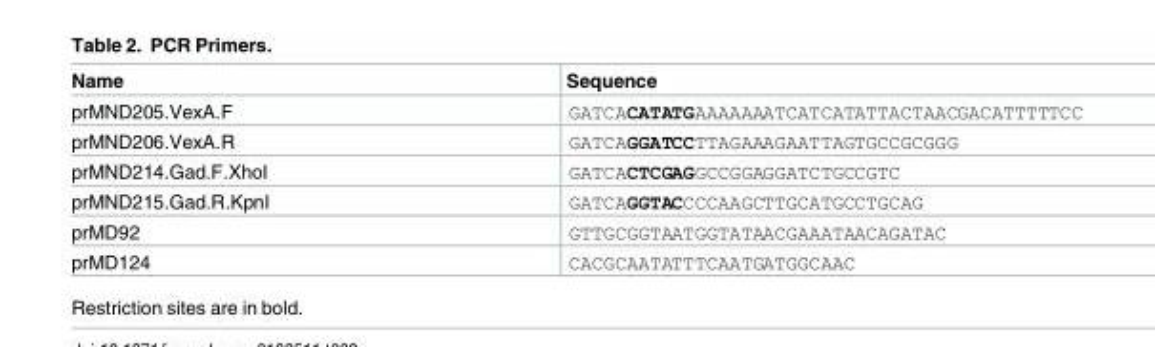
<table><thead><tr><td>Name</td><td>Sequence</td></tr></thead><tbody><tr><td>prMND205.VexA.F</td><td>GATCACATATGAAAAAAATCATCATATTACTAACGACATTTTTCC</td></tr><tr><td>prMND206.VexA.R</td><td>GATCAGGATCCTTAGAAAGAATTAGTGCCGCGGG</td></tr><tr><td>prMND214.Gad.F.XhoI</td><td>GATCACTCGAGGCCGGAGGATCTGCCGTC</td></tr><tr><td>prMND215.Gad.R.KpnI</td><td>GATCAGGTACCCCAAGCTTGCATGCCTGCAG</td></tr><tr><td>prMD92</td><td>GTTGCGGTAATGGTATAACGAAATAACAGATAC</td></tr><tr><td>prMD124</td><td>CACGCAATATTTCAATGATGGCAAC</td></tr></tbody></table>